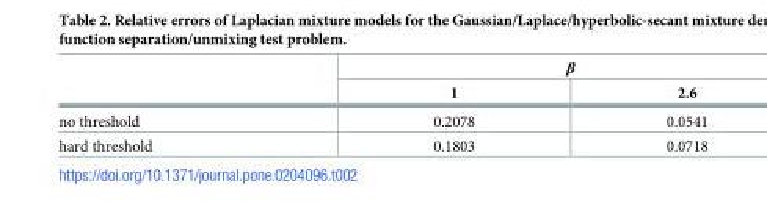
<table><thead><tr><td rowspan="2"></td><td colspan="2">β</td></tr><tr><td>1</td><td>2.6</td></tr></thead><tbody><tr><td>no threshold</td><td>0.2078</td><td>0.0541</td></tr><tr><td>hard threshold</td><td>0.1803</td><td>0.0718</td></tr></tbody></table>